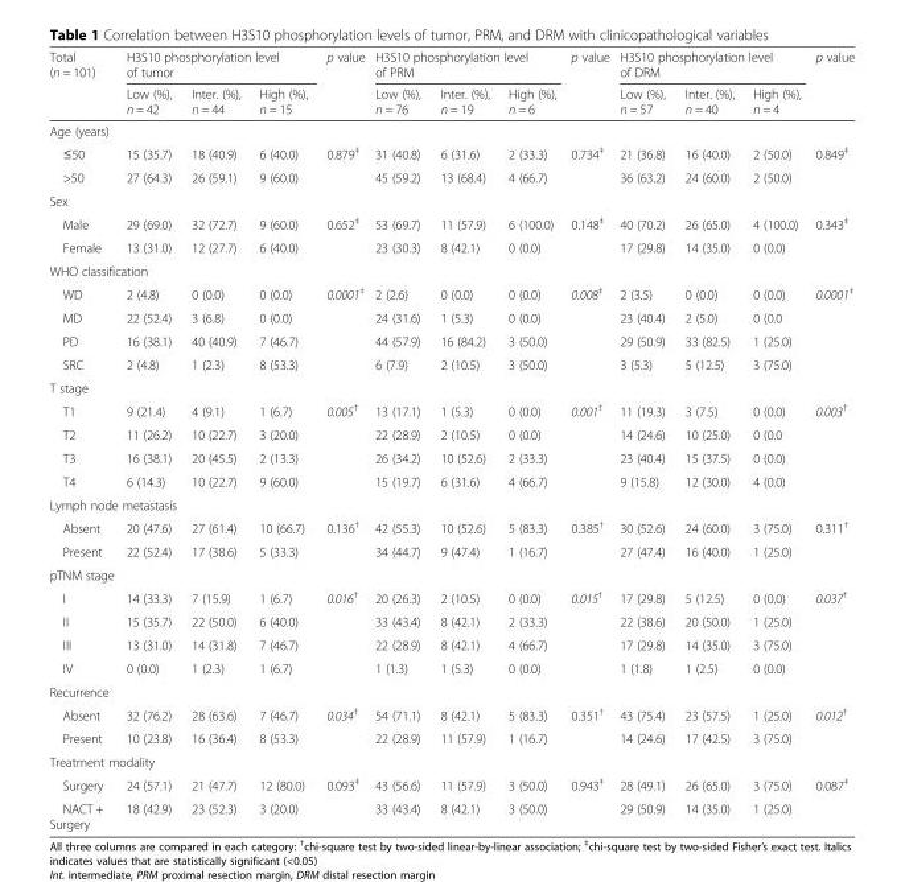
<table><thead><tr><td rowspan="2">Total (n = 101)</td><td colspan="3">H3S10 phosphorylation level of tumor</td><td rowspan="2">p value</td><td colspan="3">H3S10 phosphorylation level of PRM</td><td rowspan="2">p value</td><td colspan="3">H3S10 phosphorylation level of DRM</td><td rowspan="2">p value</td></tr><tr><td>Low (%), n = 42</td><td>Inter. (%), n = 44</td><td>High (%), n = 15</td><td>Low (%), n = 76</td><td>Inter. (%), n = 19</td><td>High (%), n = 6</td><td>Low (%), n = 57</td><td>Inter. (%), n = 40</td><td>High (%), n = 4</td></tr></thead><tbody><tr><td colspan="13">Age (years)</td></tr><tr><td>≤50</td><td>15 (35.7)</td><td>18 (40.9)</td><td>6 (40.0)</td><td rowspan="2">0.879<sup>‡</sup></td><td>31 (40.8)</td><td>6 (31.6)</td><td>2 (33.3)</td><td rowspan="2">0.734<sup>‡</sup></td><td>21 (36.8)</td><td>16 (40.0)</td><td>2 (50.0)</td><td rowspan="2">0.849<sup>‡</sup></td></tr><tr><td>&gt;50</td><td>27 (64.3)</td><td>26 (59.1)</td><td>9 (60.0)</td><td>45 (59.2)</td><td>13 (68.4)</td><td>4 (66.7)</td><td>36 (63.2)</td><td>24 (60.0)</td><td>2 (50.0)</td></tr><tr><td colspan="13">Sex</td></tr><tr><td>Male</td><td>29 (69.0)</td><td>32 (72.7)</td><td>9 (60.0)</td><td rowspan="2">0.652<sup>‡</sup></td><td>53 (69.7)</td><td>11 (57.9)</td><td>6 (100.0)</td><td rowspan="2">0.148<sup>‡</sup></td><td>40 (70.2)</td><td>26 (65.0)</td><td>4 (100.0)</td><td rowspan="2">0.343<sup>‡</sup></td></tr><tr><td>Female</td><td>13 (31.0)</td><td>12 (27.7)</td><td>6 (40.0)</td><td>23 (30.3)</td><td>8 (42.1)</td><td>0 (0.0)</td><td>17 (29.8)</td><td>14 (35.0)</td><td>0 (0.0)</td></tr><tr><td colspan="13">WHO classification</td></tr><tr><td>WD</td><td>2 (4.8)</td><td>0 (0.0)</td><td>0 (0.0)</td><td rowspan="4">0.0001<sup>‡</sup></td><td>2 (2.6)</td><td>0 (0.0)</td><td>0 (0.0)</td><td rowspan="4">0.008<sup>‡</sup></td><td>2 (3.5)</td><td>0 (0.0)</td><td>0 (0.0)</td><td rowspan="4">0.0001<sup>‡</sup></td></tr><tr><td>MD</td><td>22 (52.4)</td><td>3 (6.8)</td><td>0 (0.0)</td><td>24 (31.6)</td><td>1 (5.3)</td><td>0 (0.0)</td><td>23 (40.4)</td><td>2 (5.0)</td><td>0 (0.0</td></tr><tr><td>PD</td><td>16 (38.1)</td><td>40 (40.9)</td><td>7 (46.7)</td><td>44 (57.9)</td><td>16 (84.2)</td><td>3 (50.0)</td><td>29 (50.9)</td><td>33 (82.5)</td><td>1 (25.0)</td></tr><tr><td>SRC</td><td>2 (4.8)</td><td>1 (2.3)</td><td>8 (53.3)</td><td>6 (7.9)</td><td>2 (10.5)</td><td>3 (50.0)</td><td>3 (5.3)</td><td>5 (12.5)</td><td>3 (75.0)</td></tr><tr><td colspan="13">T stage</td></tr><tr><td>T1</td><td>9 (21.4)</td><td>4 (9.1)</td><td>1 (6.7)</td><td rowspan="4">0.005<sup>†</sup></td><td>13 (17.1)</td><td>1 (5.3)</td><td>0 (0.0)</td><td rowspan="4">0.001<sup>†</sup></td><td>11 (19.3)</td><td>3 (7.5)</td><td>0 (0.0)</td><td rowspan="4">0.003<sup>†</sup></td></tr><tr><td>T2</td><td>11 (26.2)</td><td>10 (22.7)</td><td>3 (20.0)</td><td>22 (28.9)</td><td>2 (10.5)</td><td>0 (0.0)</td><td>14 (24.6)</td><td>10 (25.0)</td><td>0 (0.0</td></tr><tr><td>T3</td><td>16 (38.1)</td><td>20 (45.5)</td><td>2 (13.3)</td><td>26 (34.2)</td><td>10 (52.6)</td><td>2 (33.3)</td><td>23 (40.4)</td><td>15 (37.5)</td><td>0 (0.0)</td></tr><tr><td>T4</td><td>6 (14.3)</td><td>10 (22.7)</td><td>9 (60.0)</td><td>15 (19.7)</td><td>6 (31.6)</td><td>4 (66.7)</td><td>9 (15.8)</td><td>12 (30.0)</td><td>4 (0.0)</td></tr><tr><td colspan="13">Lymph node metastasis</td></tr><tr><td>Absent</td><td>20 (47.6)</td><td>27 (61.4)</td><td>10 (66.7)</td><td rowspan="2">0.136<sup>†</sup></td><td>42 (55.3)</td><td>10 (52.6)</td><td>5 (83.3)</td><td rowspan="2">0.385<sup>†</sup></td><td>30 (52.6)</td><td>24 (60.0)</td><td>3 (75.0)</td><td rowspan="2">0.311<sup>†</sup></td></tr><tr><td>Present</td><td>22 (52.4)</td><td>17 (38.6)</td><td>5 (33.3)</td><td>34 (44.7)</td><td>9 (47.4)</td><td>1 (16.7)</td><td>27 (47.4)</td><td>16 (40.0)</td><td>1 (25.0)</td></tr><tr><td colspan="13">pTNM stage</td></tr><tr><td>I</td><td>14 (33.3)</td><td>7 (15.9)</td><td>1 (6.7)</td><td rowspan="4">0.016<sup>†</sup></td><td>20 (26.3)</td><td>2 (10.5)</td><td>0 (0.0)</td><td rowspan="4">0.015<sup>†</sup></td><td>17 (29.8)</td><td>5 (12.5)</td><td>0 (0.0)</td><td rowspan="4">0.037<sup>†</sup></td></tr><tr><td>II</td><td>15 (35.7)</td><td>22 (50.0)</td><td>6 (40.0)</td><td>33 (43.4)</td><td>8 (42.1)</td><td>2 (33.3)</td><td>22 (38.6)</td><td>20 (50.0)</td><td>1 (25.0)</td></tr><tr><td>III</td><td>13 (31.0)</td><td>14 (31.8)</td><td>7 (46.7)</td><td>22 (28.9)</td><td>8 (42.1)</td><td>4 (66.7)</td><td>17 (29.8)</td><td>14 (35.0)</td><td>3 (75.0)</td></tr><tr><td>IV</td><td>0 (0.0)</td><td>1 (2.3)</td><td>1 (6.7)</td><td>1 (1.3)</td><td>1 (5.3)</td><td>0 (0.0)</td><td>1 (1.8)</td><td>1 (2.5)</td><td>0 (0.0)</td></tr><tr><td colspan="13">Recurrence</td></tr><tr><td>Absent</td><td>32 (76.2)</td><td>28 (63.6)</td><td>7 (46.7)</td><td rowspan="2">0.034<sup>†</sup></td><td>54 (71.1)</td><td>8 (42.1)</td><td>5 (83.3)</td><td rowspan="2">0.351<sup>†</sup></td><td>43 (75.4)</td><td>23 (57.5)</td><td>1 (25.0)</td><td rowspan="2">0.012<sup>†</sup></td></tr><tr><td>Present</td><td>10 (23.8)</td><td>16 (36.4)</td><td>8 (53.3)</td><td>22 (28.9)</td><td>11 (57.9)</td><td>1 (16.7)</td><td>14 (24.6)</td><td>17 (42.5)</td><td>3 (75.0)</td></tr><tr><td colspan="13">Treatment modality</td></tr><tr><td>Surgery</td><td>24 (57.1)</td><td>21 (47.7)</td><td>12 (80.0)</td><td rowspan="2">0.093<sup>‡</sup></td><td>43 (56.6)</td><td>11 (57.9)</td><td>3 (50.0)</td><td rowspan="2">0.943<sup>‡</sup></td><td>28 (49.1)</td><td>26 (65.0)</td><td>3 (75.0)</td><td rowspan="2">0.087<sup>‡</sup></td></tr><tr><td>NACT + Surgery</td><td>18 (42.9)</td><td>23 (52.3)</td><td>3 (20.0)</td><td>33 (43.4)</td><td>8 (42.1)</td><td>3 (50.0)</td><td>29 (50.9)</td><td>14 (35.0)</td><td>1 (25.0)</td></tr></tbody></table>